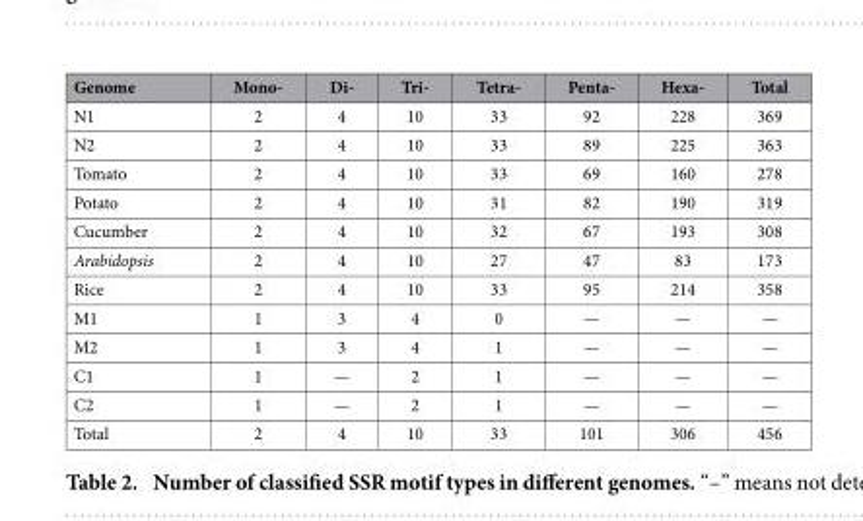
<table><thead><tr><td>Genome</td><td>Mono-</td><td>Di-</td><td>Tri-</td><td>Tetra-</td><td>Penta-</td><td>Hexa-</td><td>Total</td></tr></thead><tbody><tr><td>N1</td><td>2</td><td>4</td><td>10</td><td>33</td><td>92</td><td>228</td><td>369</td></tr><tr><td>N2</td><td>2</td><td>4</td><td>10</td><td>33</td><td>89</td><td>225</td><td>363</td></tr><tr><td>Tomato</td><td>2</td><td>4</td><td>10</td><td>33</td><td>69</td><td>160</td><td>278</td></tr><tr><td>Potato</td><td>2</td><td>4</td><td>10</td><td>31</td><td>82</td><td>190</td><td>319</td></tr><tr><td>Cucumber</td><td>2</td><td>4</td><td>10</td><td>32</td><td>67</td><td>193</td><td>308</td></tr><tr><td>Arabidopsis</td><td>2</td><td>4</td><td>10</td><td>27</td><td>47</td><td>83</td><td>173</td></tr><tr><td>Rice</td><td>2</td><td>4</td><td>10</td><td>33</td><td>95</td><td>214</td><td>358</td></tr><tr><td>M1</td><td>1</td><td>3</td><td>4</td><td>0</td><td>—</td><td>—</td><td>—</td></tr><tr><td>M2</td><td>1</td><td>3</td><td>4</td><td>1</td><td>—</td><td>—</td><td>—</td></tr><tr><td>C1</td><td>1</td><td>—</td><td>2</td><td>1</td><td>—</td><td>—</td><td>—</td></tr><tr><td>C2</td><td>1</td><td>—</td><td>2</td><td>1</td><td>—</td><td>—</td><td>—</td></tr><tr><td>Total</td><td>2</td><td>4</td><td>10</td><td>33</td><td>101</td><td>306</td><td>456</td></tr></tbody></table>